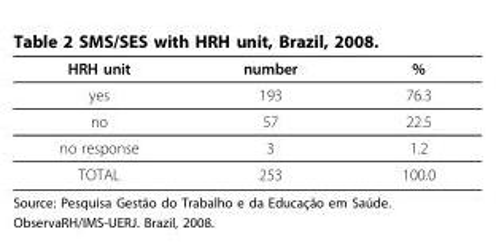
<table><thead><tr><td>HRH unit</td><td>number</td><td>%</td></tr></thead><tbody><tr><td>yes</td><td>193</td><td>76.3</td></tr><tr><td>no</td><td>57</td><td>22.5</td></tr><tr><td>no response</td><td>3</td><td>1.2</td></tr><tr><td>TOTAL</td><td>253</td><td>100.0</td></tr></tbody></table>